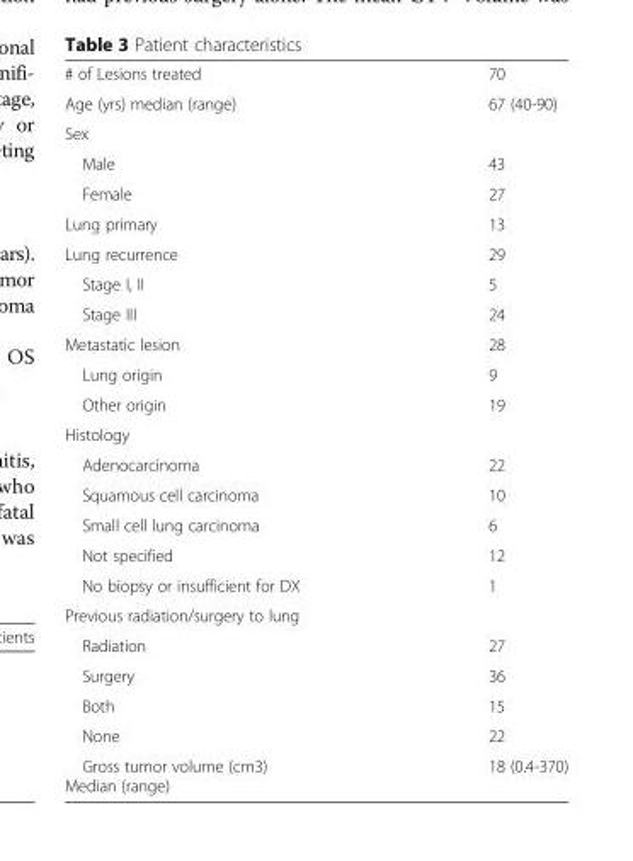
<table><tbody><tr><td># of Lesions treated</td><td>70</td></tr><tr><td>Age (yrs) median (range)</td><td>67 (40-90)</td></tr><tr><td colspan="2">Sex</td></tr><tr><td>Male</td><td>43</td></tr><tr><td>Female</td><td>27</td></tr><tr><td>Lung primary</td><td>13</td></tr><tr><td>Lung recurrence</td><td>29</td></tr><tr><td>Stage I, II</td><td>5</td></tr><tr><td>Stage III</td><td>24</td></tr><tr><td>Metastatic lesion</td><td>28</td></tr><tr><td>Lung origin</td><td>9</td></tr><tr><td>Other origin</td><td>19</td></tr><tr><td colspan="2">Histology</td></tr><tr><td>Adenocarcinoma</td><td>22</td></tr><tr><td>Squamous cell carcinoma</td><td>10</td></tr><tr><td>Small cell lung carcinoma</td><td>6</td></tr><tr><td>Not specified</td><td>12</td></tr><tr><td>No biopsy or insufficient for DX</td><td>1</td></tr><tr><td colspan="2">Previous radiation/surgery to lung</td></tr><tr><td>Radiation</td><td>27</td></tr><tr><td>Surgery</td><td>36</td></tr><tr><td>Both</td><td>15</td></tr><tr><td>None</td><td>22</td></tr><tr><td>Gross tumor volume (cm3) Median (range)</td><td>18 (0.4-370)</td></tr></tbody></table>